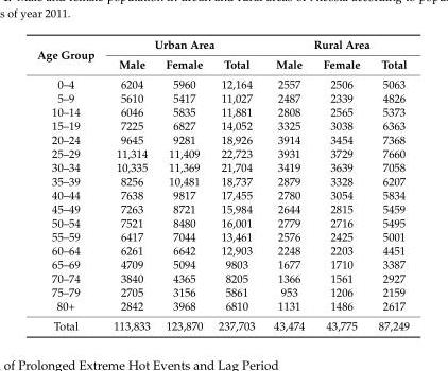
<table><thead><tr><td rowspan="2">Age Group</td><td colspan="3">Urban Area</td><td colspan="3">Rural Area</td></tr><tr><td>Male</td><td>Female</td><td>Total</td><td>Male</td><td>Female</td><td>Total</td></tr></thead><tbody><tr><td>0–4</td><td>6204</td><td>5960</td><td>12,164</td><td>2557</td><td>2506</td><td>5063</td></tr><tr><td>5–9</td><td>5610</td><td>5417</td><td>11,027</td><td>2487</td><td>2339</td><td>4826</td></tr><tr><td>10–14</td><td>6046</td><td>5835</td><td>11,881</td><td>2808</td><td>2565</td><td>5373</td></tr><tr><td>15–19</td><td>7225</td><td>6827</td><td>14,052</td><td>3325</td><td>3038</td><td>6363</td></tr><tr><td>20–24</td><td>9645</td><td>9281</td><td>18,926</td><td>3914</td><td>3454</td><td>7368</td></tr><tr><td>25–29</td><td>11,314</td><td>11,409</td><td>22,723</td><td>3931</td><td>3729</td><td>7660</td></tr><tr><td>30–34</td><td>10,335</td><td>11,369</td><td>21,704</td><td>3419</td><td>3639</td><td>7058</td></tr><tr><td>35–39</td><td>8256</td><td>10,481</td><td>18,737</td><td>2879</td><td>3328</td><td>6207</td></tr><tr><td>40–44</td><td>7638</td><td>9817</td><td>17,455</td><td>2780</td><td>3054</td><td>5834</td></tr><tr><td>45–49</td><td>7263</td><td>8721</td><td>15,984</td><td>2644</td><td>2815</td><td>5459</td></tr><tr><td>50–54</td><td>7521</td><td>8480</td><td>16,001</td><td>2779</td><td>2716</td><td>5495</td></tr><tr><td>55–59</td><td>6417</td><td>7044</td><td>13,461</td><td>2576</td><td>2425</td><td>5001</td></tr><tr><td>60–64</td><td>6261</td><td>6642</td><td>12,903</td><td>2248</td><td>2203</td><td>4451</td></tr><tr><td>65–69</td><td>4709</td><td>5094</td><td>9803</td><td>1677</td><td>1710</td><td>3387</td></tr><tr><td>70–74</td><td>3840</td><td>4365</td><td>8205</td><td>1366</td><td>1561</td><td>2927</td></tr><tr><td>75–79</td><td>2705</td><td>3156</td><td>5861</td><td>953</td><td>1206</td><td>2159</td></tr><tr><td>80+</td><td>2842</td><td>3968</td><td>6810</td><td>1131</td><td>1486</td><td>2617</td></tr><tr><td>Total</td><td>113,833</td><td>123,870</td><td>237,703</td><td>43,474</td><td>43,775</td><td>87,249</td></tr></tbody></table>